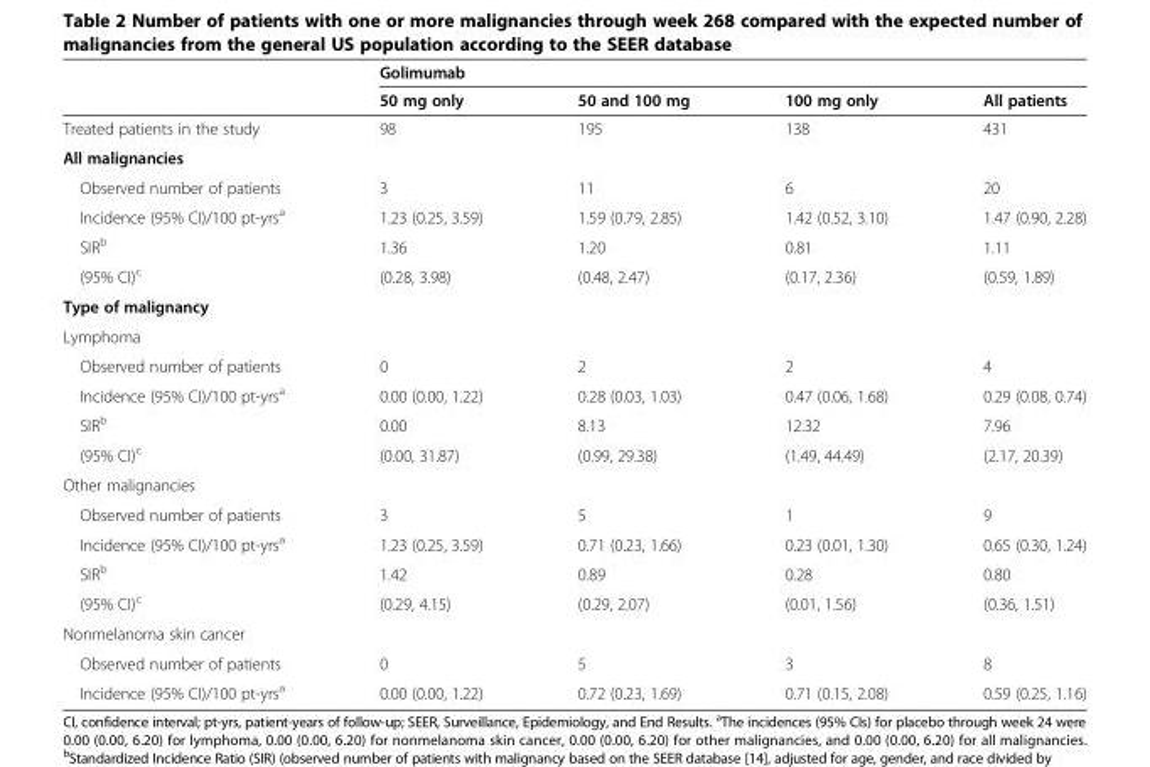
<table><thead><tr><td rowspan="2"></td><td colspan="4">Golimumab</td></tr><tr><td>50 mg only</td><td>50 and 100 mg</td><td>100 mg only</td><td>All patients</td></tr></thead><tbody><tr><td>Treated patients in the study</td><td>98</td><td>195</td><td>138</td><td>431</td></tr><tr><td colspan="5">All malignancies</td></tr><tr><td>Observed number of patients</td><td>3</td><td>11</td><td>6</td><td>20</td></tr><tr><td>Incidence (95% CI)/100 pt-yrs<sup>a</sup></td><td>1.23 (0.25, 3.59)</td><td>1.59 (0.79, 2.85)</td><td>1.42 (0.52, 3.10)</td><td>1.47 (0.90, 2.28)</td></tr><tr><td>SIR<sup>b</sup></td><td>1.36</td><td>1.20</td><td>0.81</td><td>1.11</td></tr><tr><td>(95% CI)<sup>c</sup></td><td>(0.28, 3.98)</td><td>(0.48, 2.47)</td><td>(0.17, 2.36)</td><td>(0.59, 1.89)</td></tr><tr><td colspan="5">Type of malignancy</td></tr><tr><td colspan="5">Lymphoma</td></tr><tr><td>Observed number of patients</td><td>0</td><td>2</td><td>2</td><td>4</td></tr><tr><td>Incidence (95% CI)/100 pt-yrs<sup>a</sup></td><td>0.00 (0.00, 1.22)</td><td>0.28 (0.03, 1.03)</td><td>0.47 (0.06, 1.68)</td><td>0.29 (0.08, 0.74)</td></tr><tr><td>SIR<sup>b</sup></td><td>0.00</td><td>8.13</td><td>12.32</td><td>7.96</td></tr><tr><td>(95% CI)<sup>c</sup></td><td>(0.00, 31.87)</td><td>(0.99, 29.38)</td><td>(1.49, 44.49)</td><td>(2.17, 20.39)</td></tr><tr><td colspan="5">Other malignancies</td></tr><tr><td>Observed number of patients</td><td>3</td><td>5</td><td>1</td><td>9</td></tr><tr><td>Incidence (95% CI)/100 pt-yrs<sup>a</sup></td><td>1.23 (0.25, 3.59)</td><td>0.71 (0.23, 1.66)</td><td>0.23 (0.01, 1.30)</td><td>0.65 (0.30, 1.24)</td></tr><tr><td>SIR<sup>b</sup></td><td>1.42</td><td>0.89</td><td>0.28</td><td>0.80</td></tr><tr><td>(95% CI)<sup>c</sup></td><td>(0.29, 4.15)</td><td>(0.29, 2.07)</td><td>(0.01, 1.56)</td><td>(0.36, 1.51)</td></tr><tr><td colspan="5">Nonmelanoma skin cancer</td></tr><tr><td>Observed number of patients</td><td>0</td><td>5</td><td>3</td><td>8</td></tr><tr><td>Incidence (95% CI)/100 pt-yrs<sup>a</sup></td><td>0.00 (0.00, 1.22)</td><td>0.72 (0.23, 1.69)</td><td>0.71 (0.15, 2.08)</td><td>0.59 (0.25, 1.16)</td></tr></tbody></table>